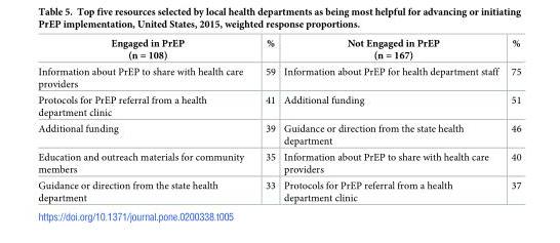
<table><thead><tr><td>Engaged in PrEP (n = 108)</td><td>%</td><td>Not Engaged in PrEP (n = 167)</td><td>%</td></tr></thead><tbody><tr><td>Information about PrEP to share with health care providers</td><td>59</td><td>Information about PrEP for health department staff</td><td>75</td></tr><tr><td>Protocols for PrEP referral from a health department clinic</td><td>41</td><td>Additional funding</td><td>51</td></tr><tr><td>Additional funding</td><td>39</td><td>Guidance or direction from the state health department</td><td>46</td></tr><tr><td>Education and outreach materials for community members</td><td>35</td><td>Information about PrEP to share with health care providers</td><td>40</td></tr><tr><td>Guidance or direction from the state health department</td><td>33</td><td>Protocols for PrEP referral from a health department clinic</td><td>37</td></tr></tbody></table>